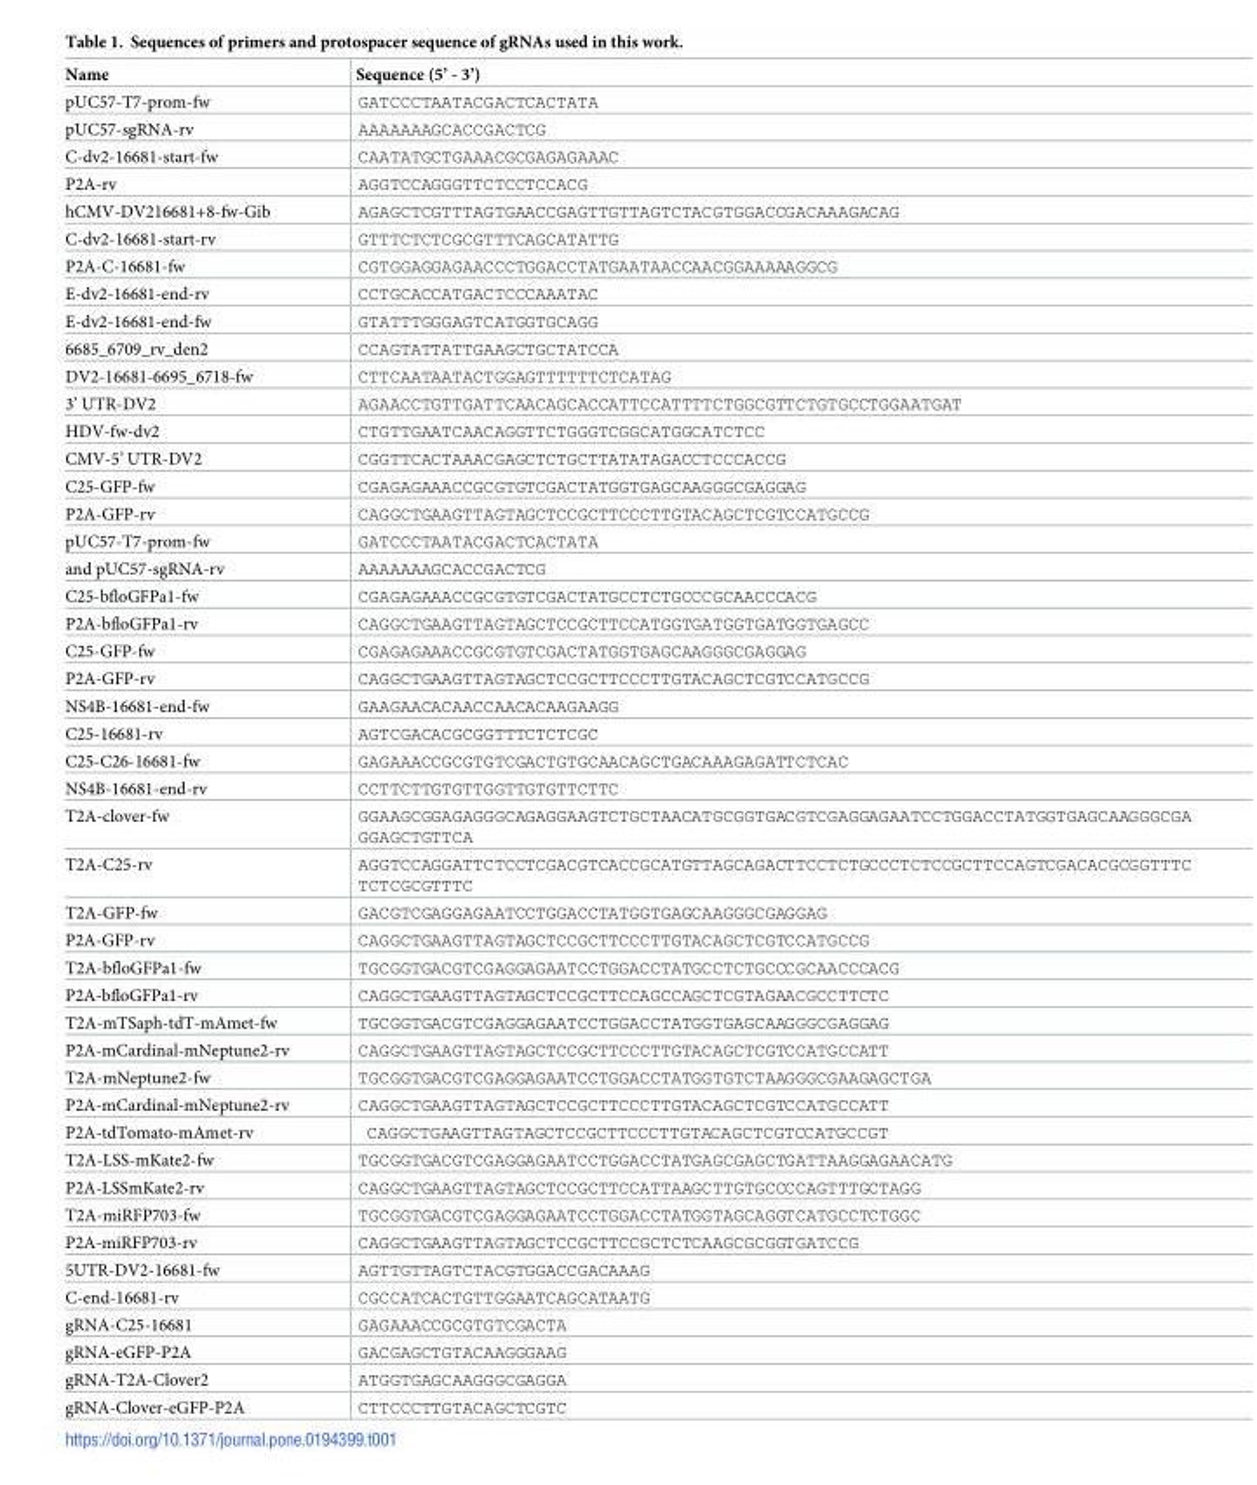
<table><thead><tr><td>Name</td><td>Sequence (5’ - 3’)</td></tr></thead><tbody><tr><td>pUC57-T7-prom-fw</td><td>GATCCCTAATACGACTCACTATA</td></tr><tr><td>pUC57-sgRNA-rv</td><td>AAAAAAAGCACCGACTCG</td></tr><tr><td>C-dv2-16681-start-fw</td><td>CAATATGCTGAAACGCGAGAGAAAC</td></tr><tr><td>P2A-rv</td><td>AGGTCCAGGGTTCTCCTCCACG</td></tr><tr><td>hCMV-DV216681+8-fw-Gib</td><td>AGAGCTCGTTTAGTGAACCGAGTTGTTAGTCTACGTGGACCGACAAAGACAG</td></tr><tr><td>C-dv2-16681-start-rv</td><td>GTTTCTCTCGCGTTTCAGCATATTG</td></tr><tr><td>P2A-C-16681-fw</td><td>CGTGGAGGAGAACCCTGGACCTATGAATAACCAACGGAAAAAGGCG</td></tr><tr><td>E-dv2-16681-end-rv</td><td>CCTGCACCATGACTCCCAAATAC</td></tr><tr><td>E-dv2-16681-end-fw</td><td>GTATTTGGGAGTCATGGTGCAGG</td></tr><tr><td>6685_6709_rv_den2</td><td>CCAGTATTATTGAAGCTGCTATCCA</td></tr><tr><td>DV2-16681-6695_6718-fw</td><td>CTTCAATAATACTGGAGTTTTTTCTCATAG</td></tr><tr><td>3’ UTR-DV2</td><td>AGAACCTGTTGATTCAACAGCACCATTCCATTTTCTGGCGTTCTGTGCCTGGAATGAT</td></tr><tr><td>HDV-fw-dv2</td><td>CTGTTGAATCAACAGGTTCTGGGTCGGCATGGCATCTCC</td></tr><tr><td>CMV-5’ UTR-DV2</td><td>CGGTTCACTAAACGAGCTCTGCTTATATAGACCTCCCACCG</td></tr><tr><td>C25-GFP-fw</td><td>CGAGAGAAACCGCGTGTCGACTATGGTGAGCAAGGGCGAGGAG</td></tr><tr><td>P2A-GFP-rv</td><td>CAGGCTGAAGTTAGTAGCTCCGCTTCCCTTGTACAGCTCGTCCATGCCG</td></tr><tr><td>pUC57-T7-prom-fw</td><td>GATCCCTAATACGACTCACTATA</td></tr><tr><td>and pUC57-sgRNA-rv</td><td>AAAAAAAGCACCGACTCG</td></tr><tr><td>C25-bfloGFPa1-fw</td><td>CGAGAGAAACCGCGTGTCGACTATGCCTCTGCCCGCAACCCACG</td></tr><tr><td>P2A-bfloGFPa1-rv</td><td>CAGGCTGAAGTTAGTAGCTCCGCTTCCATGGTGATGGTGATGGTGAGCC</td></tr><tr><td>C25-GFP-fw</td><td>CGAGAGAAACCGCGTGTCGACTATGGTGAGCAAGGGCGAGGAG</td></tr><tr><td>P2A-GFP-rv</td><td>CAGGCTGAAGTTAGTAGCTCCGCTTCCCTTGTACAGCTCGTCCATGCCG</td></tr><tr><td>NS4B-16681-end-fw</td><td>GAAGAACACAACCAACACAAGAAGG</td></tr><tr><td>C25-16681-rv</td><td>AGTCGACACGCGGTTTCTCTCGC</td></tr><tr><td>C25-C26-16681-fw</td><td>GAGAAACCGCGTGTCGACTGTGCAACAGCTGACAAAGAGATTCTCAC</td></tr><tr><td>NS4B-16681-end-rv</td><td>CCTTCTTGTGTTGGTTGTGTTCTTC</td></tr><tr><td>T2A-clover-fw</td><td>GGAAGCGGAGAGGGCAGAGGAAGTCTGCTAACATGCGGTGACGTCGAGGAGAATCCTGGACCTATGGTGAGCAAGGGCGA GGAGCTGTTCA</td></tr><tr><td>T2A-C25-rv</td><td>AGGTCCAGGATTCTCCTCGACGTCACCGCATGTTAGCAGACTTCCTCTGCCCTCTCCGCTTCCAGTCGACACGCGGTTTC TCTCGCGTTTC</td></tr><tr><td>T2A-GFP-fw</td><td>GACGTCGAGGAGAATCCTGGACCTATGGTGAGCAAGGGCGAGGAG</td></tr><tr><td>P2A-GFP-rv</td><td>CAGGCTGAAGTTAGTAGCTCCGCTTCCCTTGTACAGCTCGTCCATGCCG</td></tr><tr><td>T2A-bfloGFPa1-fw</td><td>TGCGGTGACGTCGAGGAGAATCCTGGACCTATGCCTCTGCCCGCAACCCACG</td></tr><tr><td>P2A-bfloGFPa1-rv</td><td>CAGGCTGAAGTTAGTAGCTCCGCTTCCAGCCAGCTCGTAGAACGCCTTCTC</td></tr><tr><td>T2A-mTSaph-tdT-mAmet-fw</td><td>TGCGGTGACGTCGAGGAGAATCCTGGACCTATGGTGAGCAAGGGCGAGGAG</td></tr><tr><td>P2A-mCardinal-mNeptune2-rv</td><td>CAGGCTGAAGTTAGTAGCTCCGCTTCCCTTGTACAGCTCGTCCATGCCATT</td></tr><tr><td>T2A-mNeptune2-fw</td><td>TGCGGTGACGTCGAGGAGAATCCTGGACCTATGGTGTCTAAGGGCGAAGAGCTGA</td></tr><tr><td>P2A-mCardinal-mNeptune2-rv</td><td>CAGGCTGAAGTTAGTAGCTCCGCTTCCCTTGTACAGCTCGTCCATGCCATT</td></tr><tr><td>P2A-tdTomato-mAmet-rv</td><td>CAGGCTGAAGTTAGTAGCTCCGCTTCCCTTGTACAGCTCGTCCATGCCGT</td></tr><tr><td>T2A-LSS-mKate2-fw</td><td>TGCGGTGACGTCGAGGAGAATCCTGGACCTATGAGCGAGCTGATTAAGGAGAACATG</td></tr><tr><td>P2A-LSSmKate2-rv</td><td>CAGGCTGAAGTTAGTAGCTCCGCTTCCATTAAGCTTGTGCCCCAGTTTGCTAGG</td></tr><tr><td>T2A-miRFP703-fw</td><td>TGCGGTGACGTCGAGGAGAATCCTGGACCTATGGTAGCAGGTCATGCCTCTGGC</td></tr><tr><td>P2A-miRFP703-rv</td><td>CAGGCTGAAGTTAGTAGCTCCGCTTCCGCTCTCAAGCGCGGTGATCCG</td></tr><tr><td>5UTR-DV2-16681-fw</td><td>AGTTGTTAGTCTACGTGGACCGACAAAG</td></tr><tr><td>C-end-16681-rv</td><td>CGCCATCACTGTTGGAATCAGCATAATG</td></tr><tr><td>gRNA-C25-16681</td><td>GAGAAACCGCGTGTCGACTA</td></tr><tr><td>gRNA-eGFP-P2A</td><td>GACGAGCTGTACAAGGGAAG</td></tr><tr><td>gRNA-T2A-Clover2</td><td>ATGGTGAGCAAGGGCGAGGA</td></tr><tr><td>gRNA-Clover-eGFP-P2A</td><td>CTTCCCTTGTACAGCTCGTC</td></tr></tbody></table>